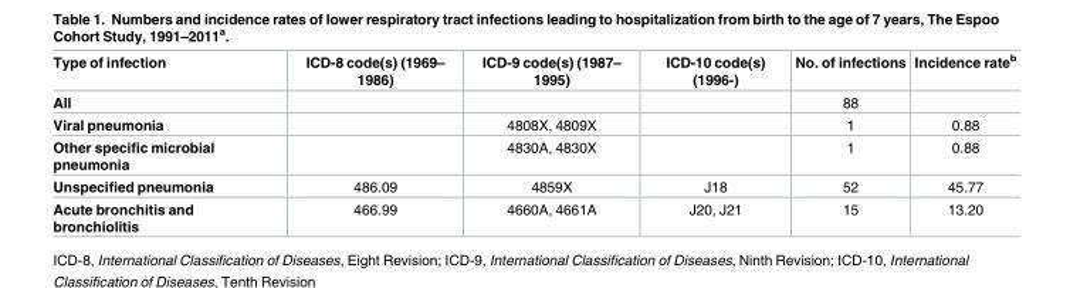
<table><thead><tr><td>Type of infection</td><td>ICD-8 code(s) (1969– 1986)</td><td>ICD-9 code(s) (1987– 1995)</td><td>ICD-10 code(s) (1996-)</td><td>No. of infections</td><td>Incidence rate<sup>b</sup></td></tr></thead><tbody><tr><td>All</td><td></td><td></td><td></td><td>88</td><td></td></tr><tr><td>Viral pneumonia</td><td></td><td>4808X, 4809X</td><td></td><td>1</td><td>0.88</td></tr><tr><td>Other specific microbial pneumonia</td><td></td><td>4830A, 4830X</td><td></td><td>1</td><td>0.88</td></tr><tr><td>Unspecified pneumonia</td><td>486.09</td><td>4859X</td><td>J18</td><td>52</td><td>45.77</td></tr><tr><td>Acute bronchitis and bronchiolitis</td><td>466.99</td><td>4660A, 4661A</td><td>J20, J21</td><td>15</td><td>13.20</td></tr></tbody></table>